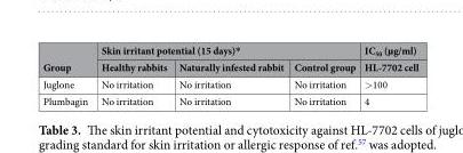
<table><thead><tr><td rowspan="2">Group</td><td colspan="3">Skin irritant potential (15 days)*</td><td rowspan="2">IC<sub>50</sub> (µg/ml) HL-7702 cell</td></tr><tr><td>Healthy rabbits</td><td>Naturally infested rabbit</td><td>Control group</td></tr></thead><tbody><tr><td>Juglone</td><td>No irritation</td><td>No irritation</td><td>No irritation</td><td>&gt;100</td></tr><tr><td>Plumbagin</td><td>No irritation</td><td>No irritation</td><td>No irritation</td><td>4</td></tr></tbody></table>